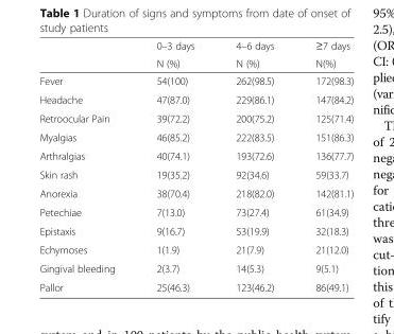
<table><thead><tr><td rowspan="2"></td><td rowspan="2">0–3 days N (%)</td><td rowspan="2">4–6 days N (%)</td><td rowspan="2">≥7 days N(%)</td></tr><tr></tr></thead><tbody><tr><td>Fever</td><td>54(100)</td><td>262(98.5)</td><td>172(98.3)</td></tr><tr><td>Headache</td><td>47(87.0)</td><td>229(86.1)</td><td>147(84.2)</td></tr><tr><td>Retroocular Pain</td><td>39(72.2)</td><td>200(75.2)</td><td>125(71.4)</td></tr><tr><td>Myalgias</td><td>46(85.2)</td><td>222(83.5)</td><td>151(86.3)</td></tr><tr><td>Arthralgias</td><td>40(74.1)</td><td>193(72.6)</td><td>136(77.7)</td></tr><tr><td>Skin rash</td><td>19(35.2)</td><td>92(34.6)</td><td>59(33.7)</td></tr><tr><td>Anorexia</td><td>38(70.4)</td><td>218(82.0)</td><td>142(81.1)</td></tr><tr><td>Petechiae</td><td>7(13.0)</td><td>73(27.4)</td><td>61(34.9)</td></tr><tr><td>Epistaxis</td><td>9(16.7)</td><td>53(19.9)</td><td>32(18.3)</td></tr><tr><td>Echymoses</td><td>1(1.9)</td><td>21(7.9)</td><td>21(12.0)</td></tr><tr><td>Gingival bleeding</td><td>2(3.7)</td><td>14(5.3)</td><td>9(5.1)</td></tr><tr><td>Pallor</td><td>25(46.3)</td><td>123(46.2)</td><td>86(49.1)</td></tr></tbody></table>